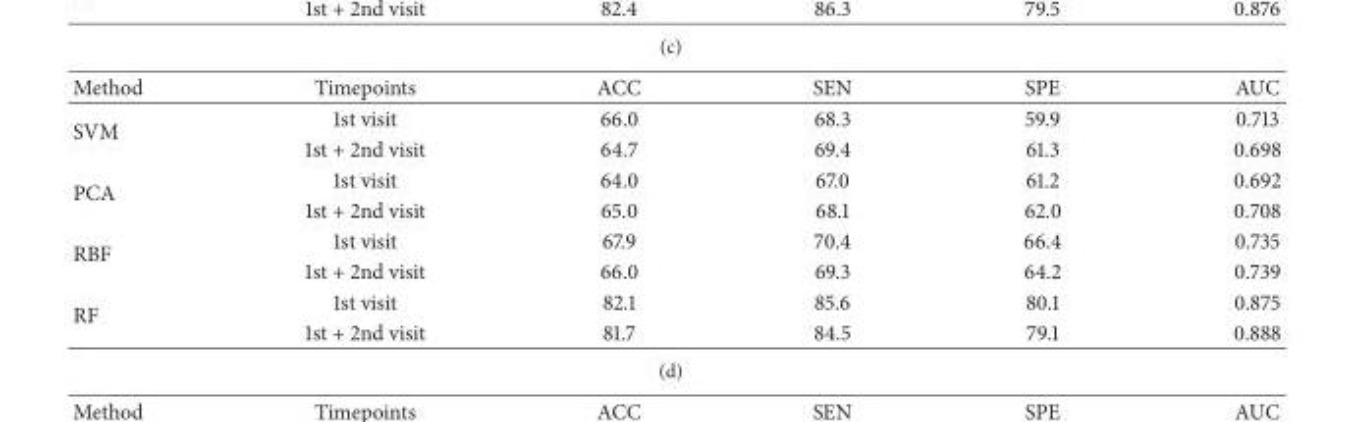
<table><thead><tr><td>Method</td><td>Timepoints</td><td>ACC</td><td>SEN</td><td>SPE</td><td>AUC</td></tr></thead><tbody><tr><td rowspan="2">SVM</td><td>1st visit</td><td>66.0</td><td>68.3</td><td>59.9</td><td>0.713</td></tr><tr><td>1st + 2nd visit</td><td>64.7</td><td>69.4</td><td>61.3</td><td>0.698</td></tr><tr><td rowspan="2">PCA</td><td>1st visit</td><td>64.0</td><td>67.0</td><td>61.2</td><td>0.692</td></tr><tr><td>1st + 2nd visit</td><td>65.0</td><td>68.1</td><td>62.0</td><td>0.708</td></tr><tr><td rowspan="2">RBF</td><td>1st visit</td><td>67.9</td><td>70.4</td><td>66.4</td><td>0.735</td></tr><tr><td>1st + 2nd visit</td><td>66.0</td><td>69.3</td><td>64.2</td><td>0.739</td></tr><tr><td rowspan="2">RF</td><td>1st visit</td><td>82.1</td><td>85.6</td><td>80.1</td><td>0.875</td></tr><tr><td>1st + 2nd visit</td><td>81.7</td><td>84.5</td><td>79.1</td><td>0.888</td></tr></tbody></table>